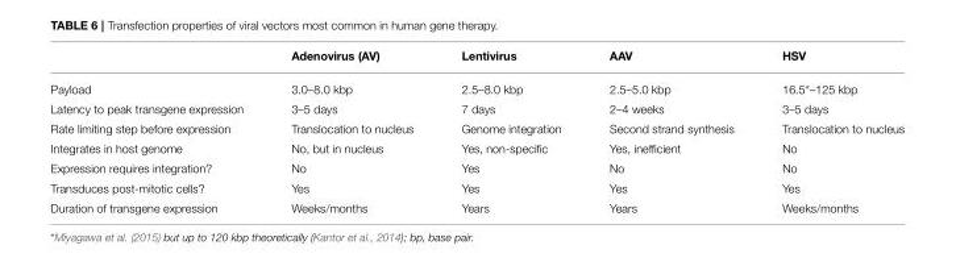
<table><thead><tr><td></td><td>Adenovirus (AV)</td><td>Lentivirus</td><td>AAV</td><td>HSV</td></tr></thead><tbody><tr><td>Payload</td><td>3.0–8.0 kbp</td><td>2.5–8.0 kbp</td><td>2.5–5.0 kbp</td><td>16.5*–125 kbp</td></tr><tr><td>Latency to peak transgene expression</td><td>3–5 days</td><td>7 days</td><td>2–4 weeks</td><td>3–5 days</td></tr><tr><td>Rate limiting step before expression</td><td>Translocation to nucleus</td><td>Genome integration</td><td>Second strand synthesis</td><td>Translocation to nucleus</td></tr><tr><td>Integrates in host genome</td><td>No, but in nucleus</td><td>Yes, non-specific</td><td>Yes, inefficient</td><td>No</td></tr><tr><td>Expression requires integration?</td><td>No</td><td>Yes</td><td>No</td><td>No</td></tr><tr><td>Transduces post-mitotic cells?</td><td>Yes</td><td>Yes</td><td>Yes</td><td>Yes</td></tr><tr><td>Duration of transgene expression</td><td>Weeks/months</td><td>Years</td><td>Years</td><td>Weeks/months</td></tr></tbody></table>